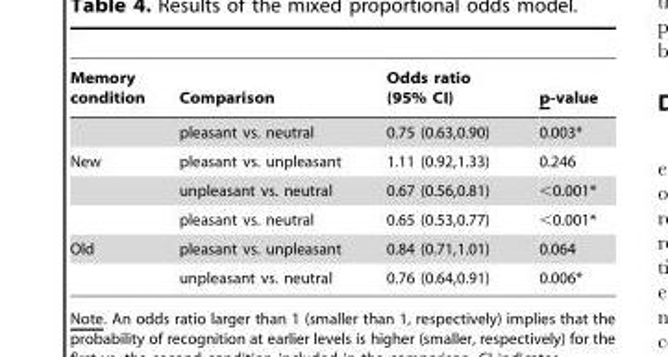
<table><thead><tr><td>Memory condition</td><td>Comparison</td><td>Odds ratio (95% CI)</td><td>p-value</td></tr></thead><tbody><tr><td></td><td>pleasant vs. neutral</td><td>0.75 (0.63,0.90)</td><td>0.003*</td></tr><tr><td rowspan="3">New</td><td>pleasant vs. unpleasant</td><td>1.11 (0.92,1.33)</td><td>0.246</td></tr><tr><td>unpleasant vs. neutral</td><td>0.67 (0.56,0.81)</td><td>&lt;0.001*</td></tr><tr><td>pleasant vs. neutral</td><td>0.65 (0.53,0.77)</td><td>&lt;0.001*</td></tr><tr><td rowspan="2">Old</td><td>pleasant vs. unpleasant</td><td>0.84 (0.71,1.01)</td><td>0.064</td></tr><tr><td>unpleasant vs. neutral</td><td>0.76 (0.64,0.91)</td><td>0.006*</td></tr></tbody></table>